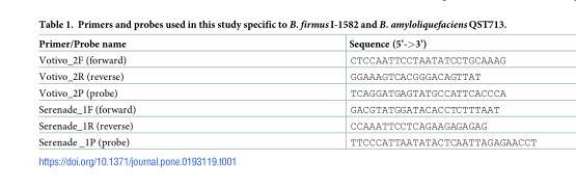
<table><thead><tr><td>Primer/Probe name</td><td>Sequence (5’-&gt;3’)</td></tr></thead><tbody><tr><td>Votivo_2F (forward)</td><td>CTCCAATTCCTAATATCCTGCAAAG</td></tr><tr><td>Votivo_2R (reverse)</td><td>GGAAAGTCACGGGACAGTTAT</td></tr><tr><td>Votivo_2P (probe)</td><td>TCAGGATGAGTATGCCATTCACCCA</td></tr><tr><td>Serenade_1F (forward)</td><td>GACGTATGGATACACCTCTTTAAT</td></tr><tr><td>Serenade_1R (reverse)</td><td>CCAAATTCCTCAGAAGAGAGAG</td></tr><tr><td>Serenade _1P (probe)</td><td>TTCCCATTAATATACTCAATTAGAGAACCT</td></tr></tbody></table>